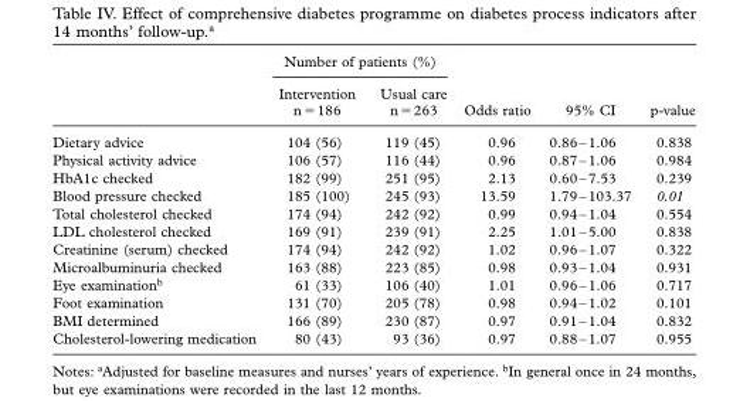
<table><thead><tr><td rowspan="2"></td><td colspan="2">Number of patients (%)</td><td rowspan="2">Odds ratio</td><td rowspan="2">95% CI</td><td rowspan="2">p-value</td></tr><tr><td>Intervention n = 186</td><td>Usual care n = 263</td></tr></thead><tbody><tr><td>Dietary advice</td><td>104 (56)</td><td>119 (45)</td><td>0.96</td><td>0.86 – 1.06</td><td>0.838</td></tr><tr><td>Physical activity advice</td><td>106 (57)</td><td>116 (44)</td><td>0.96</td><td>0.87 – 1.06</td><td>0.984</td></tr><tr><td>HbA1c checked</td><td>182 (99)</td><td>251 (95)</td><td>2.13</td><td>0.60 – 7.53</td><td>0.239</td></tr><tr><td>Blood pressure checked</td><td>185 (100)</td><td>245 (93)</td><td>13.59</td><td>1.79 – 103.37</td><td>0.01</td></tr><tr><td>Total cholesterol checked</td><td>174 (94)</td><td>242 (92)</td><td>0.99</td><td>0.94 – 1.04</td><td>0.554</td></tr><tr><td>LDL cholesterol checked</td><td>169 (91)</td><td>239 (91)</td><td>2.25</td><td>1.01 – 5.00</td><td>0.838</td></tr><tr><td>Creatinine (serum) checked</td><td>174 (94)</td><td>242 (92)</td><td>1.02</td><td>0.96 – 1.07</td><td>0.322</td></tr><tr><td>Microalbuminuria checked</td><td>163 (88)</td><td>223 (85)</td><td>0.98</td><td>0.93 – 1.04</td><td>0.931</td></tr><tr><td>Eye examination <sup>b</sup></td><td>61 (33)</td><td>106 (40)</td><td>1.01</td><td>0.96 – 1.06</td><td>0.717</td></tr><tr><td>Foot examination</td><td>131 (70)</td><td>205 (78)</td><td>0.98</td><td>0.94 – 1.02</td><td>0.101</td></tr><tr><td>BMI determined</td><td>166 (89)</td><td>230 (87)</td><td>0.97</td><td>0.91 – 1.04</td><td>0.832</td></tr><tr><td>Cholesterol-lowering medication</td><td>80 (43)</td><td>93 (36)</td><td>0.97</td><td>0.88 – 1.07</td><td>0.955</td></tr></tbody></table>